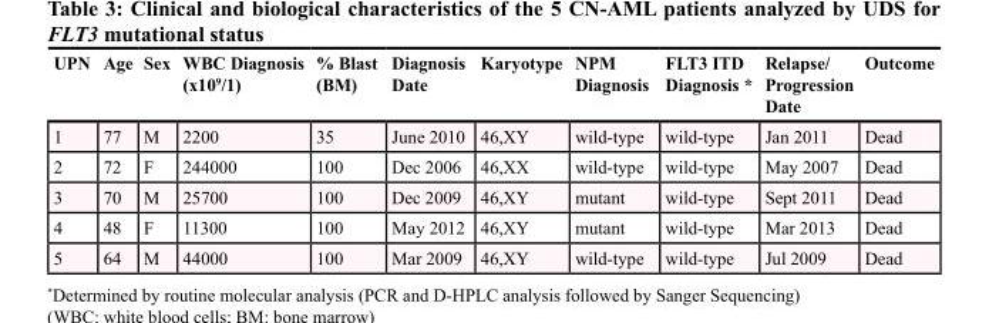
<table><thead><tr><td>UPN</td><td>Age</td><td>Sex</td><td>WBC Diagnosis (x10<sup>9</sup>/1)</td><td>% Blast (BM)</td><td>Diagnosis Date</td><td>Karyotype</td><td>NPM Diagnosis</td><td>FLT3 ITD Diagnosis *</td><td>Relapse/ Progression Date</td><td>Outcome</td></tr></thead><tbody><tr><td>1</td><td>77</td><td>M</td><td>2200</td><td>35</td><td>June 2010</td><td>46,XY</td><td>wild-type</td><td>wild-type</td><td>Jan 2011</td><td>Dead</td></tr><tr><td>2</td><td>72</td><td>F</td><td>244000</td><td>100</td><td>Dec 2006</td><td>46,XX</td><td>wild-type</td><td>wild-type</td><td>May 2007</td><td>Dead</td></tr><tr><td>3</td><td>70</td><td>M</td><td>25700</td><td>100</td><td>Dec 2009</td><td>46,XY</td><td>mutant</td><td>wild-type</td><td>Sept 2011</td><td>Dead</td></tr><tr><td>4</td><td>48</td><td>F</td><td>11300</td><td>100</td><td>May 2012</td><td>46,XY</td><td>mutant</td><td>wild-type</td><td>Mar 2013</td><td>Dead</td></tr><tr><td>5</td><td>64</td><td>M</td><td>44000</td><td>100</td><td>Mar 2009</td><td>46,XY</td><td>wild-type</td><td>wild-type</td><td>Jul 2009</td><td>Dead</td></tr></tbody></table>